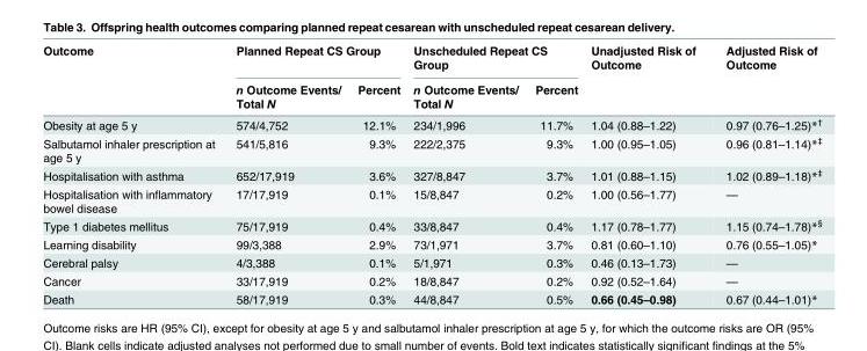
<table><thead><tr><td rowspan="2">Outcome</td><td colspan="2">Planned Repeat CS Group</td><td colspan="2">Unscheduled Repeat CS Group</td><td rowspan="2">Unadjusted Risk of Outcome</td><td rowspan="2">Adjusted Risk of Outcome</td></tr><tr><td>n Outcome Events/ Total N</td><td>Percent</td><td>n Outcome Events/ Total N</td><td>Percent</td></tr></thead><tbody><tr><td>Obesity at age 5 y</td><td>574/4,752</td><td>12.1%</td><td>234/1,996</td><td>11.7%</td><td>1.04 (0.88–1.22)</td><td>0.97 (0.76–1.25)*<sup>†</sup></td></tr><tr><td>Salbutamol inhaler prescription at age 5 y</td><td>541/5,816</td><td>9.3%</td><td>222/2,375</td><td>9.3%</td><td>1.00 (0.95–1.05)</td><td>0.96 (0.81–1.14)*<sup>‡</sup></td></tr><tr><td>Hospitalisation with asthma</td><td>652/17,919</td><td>3.6%</td><td>327/8,847</td><td>3.7%</td><td>1.01 (0.88–1.15)</td><td>1.02 (0.89–1.18)*<sup>‡</sup></td></tr><tr><td>Hospitalisation with inflammatory bowel disease</td><td>17/17,919</td><td>0.1%</td><td>15/8,847</td><td>0.2%</td><td>1.00 (0.56–1.77)</td><td>—</td></tr><tr><td>Type 1 diabetes mellitus</td><td>75/17,919</td><td>0.4%</td><td>33/8,847</td><td>0.4%</td><td>1.17 (0.78–1.77)</td><td>1.15 (0.74–1.78)*<sup>§</sup></td></tr><tr><td>Learning disability</td><td>99/3,388</td><td>2.9%</td><td>73/1,971</td><td>3.7%</td><td>0.81 (0.60–1.10)</td><td>0.76 (0.55–1.05)*</td></tr><tr><td>Cerebral palsy</td><td>4/3,388</td><td>0.1%</td><td>5/1,971</td><td>0.3%</td><td>0.46 (0.13–1.73)</td><td>—</td></tr><tr><td>Cancer</td><td>33/17,919</td><td>0.2%</td><td>18/8,847</td><td>0.2%</td><td>0.92 (0.52–1.64)</td><td>—</td></tr><tr><td>Death</td><td>58/17,919</td><td>0.3%</td><td>44/8,847</td><td>0.5%</td><td>0.66 (0.45–0.98)</td><td>0.67 (0.44–1.01)*</td></tr></tbody></table>